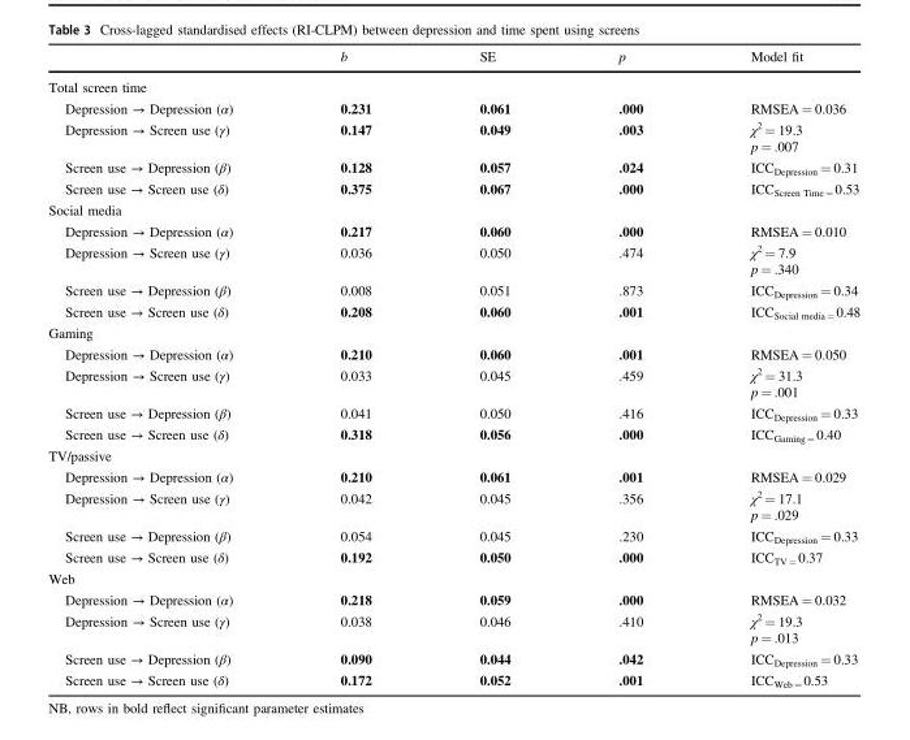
<table><thead><tr><td></td><td>b</td><td>SE</td><td>p</td><td>Model fit</td></tr></thead><tbody><tr><td colspan="5">Total screen time</td></tr><tr><td>Depression → Depression (α)</td><td>0.231</td><td>0.061</td><td>.000</td><td>RMSEA = 0.036</td></tr><tr><td>Depression → Screen use (γ)</td><td>0.147</td><td>0.049</td><td>.003</td><td>χ<sup>2</sup> = 19.3 p = .007</td></tr><tr><td>Screen use → Depression (β)</td><td>0.128</td><td>0.057</td><td>.024</td><td>ICC<sub>Depression</sub> = 0.31</td></tr><tr><td>Screen use → Screen use (δ)</td><td>0.375</td><td>0.067</td><td>.000</td><td>ICC<sub>Screen Time =</sub>0.53</td></tr><tr><td colspan="5">Social media</td></tr><tr><td>Depression → Depression (α)</td><td>0.217</td><td>0.060</td><td>.000</td><td>RMSEA = 0.010</td></tr><tr><td>Depression → Screen use (γ)</td><td>0.036</td><td>0.050</td><td>.474</td><td>χ<sup>2</sup> = 7.9 p = .340</td></tr><tr><td>Screen use → Depression (β)</td><td>0.008</td><td>0.051</td><td>.873</td><td>ICC<sub>Depression</sub> = 0.34</td></tr><tr><td>Screen use → Screen use (δ)</td><td>0.208</td><td>0.060</td><td>.001</td><td>ICC<sub>Social media =</sub>0.48</td></tr><tr><td colspan="5">Gaming</td></tr><tr><td>Depression → Depression (α)</td><td>0.210</td><td>0.060</td><td>.001</td><td>RMSEA = 0.050</td></tr><tr><td>Depression → Screen use (γ)</td><td>0.033</td><td>0.045</td><td>.459</td><td>χ<sup>2</sup> = 31.3 p = .001</td></tr><tr><td>Screen use → Depression (β)</td><td>0.041</td><td>0.050</td><td>.416</td><td>ICC<sub>Depression</sub> = 0.33</td></tr><tr><td>Screen use → Screen use (δ)</td><td>0.318</td><td>0.056</td><td>.000</td><td>ICC<sub>Gaming =</sub>0.40</td></tr><tr><td colspan="5">TV/passive</td></tr><tr><td>Depression → Depression (α)</td><td>0.210</td><td>0.061</td><td>.001</td><td>RMSEA = 0.029</td></tr><tr><td>Depression → Screen use (γ)</td><td>0.042</td><td>0.045</td><td>.356</td><td>χ<sup>2</sup> = 17.1 p = .029</td></tr><tr><td>Screen use → Depression (β)</td><td>0.054</td><td>0.045</td><td>.230</td><td>ICC<sub>Depression</sub> = 0.33</td></tr><tr><td>Screen use → Screen use (δ)</td><td>0.192</td><td>0.050</td><td>.000</td><td>ICC<sub>TV =</sub>0.37</td></tr><tr><td colspan="5">Web</td></tr><tr><td>Depression → Depression (α)</td><td>0.218</td><td>0.059</td><td>.000</td><td>RMSEA = 0.032</td></tr><tr><td>Depression → Screen use (γ)</td><td>0.038</td><td>0.046</td><td>.410</td><td>χ<sup>2</sup> = 19.3 p = .013</td></tr><tr><td>Screen use → Depression (β)</td><td>0.090</td><td>0.044</td><td>.042</td><td>ICC<sub>Depression</sub> = 0.33</td></tr><tr><td>Screen use → Screen use (δ)</td><td>0.172</td><td>0.052</td><td>.001</td><td>ICC<sub>Web =</sub>0.53</td></tr></tbody></table>